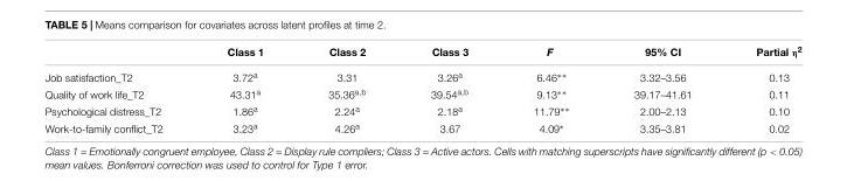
<table><thead><tr><td></td><td>Class 1</td><td>Class 2</td><td>Class 3</td><td>F</td><td>95% CI</td><td>Partial η<sup>2</sup></td></tr></thead><tbody><tr><td>Job satisfaction_T2</td><td>3.72<sup>a</sup></td><td>3.31</td><td>3.26<sup>a</sup></td><td>6.46∗∗</td><td>3.32–3.56</td><td>0.13</td></tr><tr><td>Quality of work life_T2</td><td>43.31<sup>a</sup></td><td>35.36<sup>a,b</sup></td><td>39.54<sup>a,b</sup></td><td>9.13∗∗</td><td>39.17–41.61</td><td>0.11</td></tr><tr><td>Psychological distress_T2</td><td>1.86<sup>a</sup></td><td>2.24<sup>a</sup></td><td>2.18<sup>a</sup></td><td>11.79∗∗</td><td>2.00–2.13</td><td>0.10</td></tr><tr><td>Work-to-family conflict_T2</td><td>3.23<sup>a</sup></td><td>4.26<sup>a</sup></td><td>3.67</td><td>4.09∗</td><td>3.35–3.81</td><td>0.02</td></tr></tbody></table>